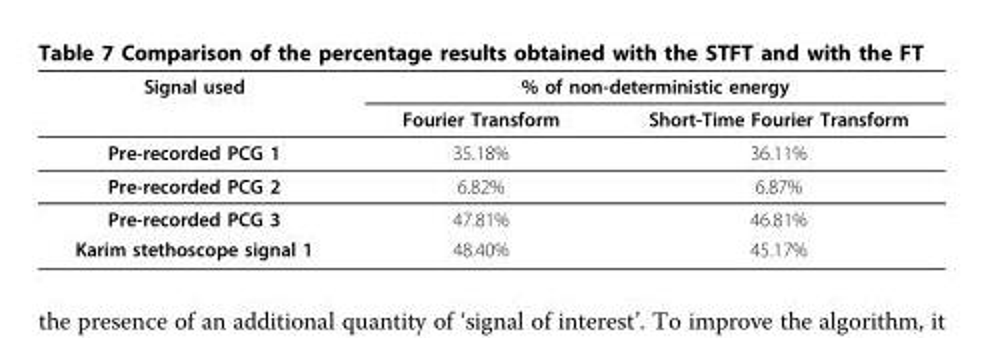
<table><thead><tr><td rowspan="2">Signal used</td><td colspan="2">% of non-deterministic energy</td></tr><tr><td>Fourier Transform</td><td>Short-Time Fourier Transform</td></tr></thead><tbody><tr><td>Pre-recorded PCG 1</td><td>35.18%</td><td>36.11%</td></tr><tr><td>Pre-recorded PCG 2</td><td>6.82%</td><td>6.87%</td></tr><tr><td>Pre-recorded PCG 3</td><td>47.81%</td><td>46.81%</td></tr><tr><td>Karim stethoscope signal 1</td><td>48.40%</td><td>45.17%</td></tr></tbody></table>